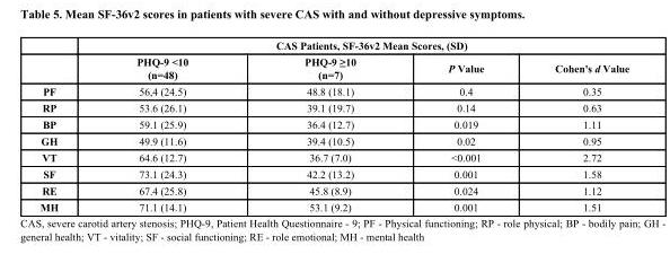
<table><thead><tr><td rowspan="2"></td><td colspan="4">CAS Patients, SF-36v2 Mean Scores, (SD)</td></tr><tr><td>PHQ-9 &lt;10 (n=48)</td><td>PHQ-9 ≥10 (n=7)</td><td>P Value</td><td>Cohen&#x27;s d Value</td></tr></thead><tbody><tr><td>PF</td><td>56,4 (24.5)</td><td>48.8 (18.1)</td><td>0.4</td><td>0.35</td></tr><tr><td>RP</td><td>53.6 (26.1)</td><td>39.1 (19.7)</td><td>0.14</td><td>0.63</td></tr><tr><td>BP</td><td>59.1 (25.9)</td><td>36.4 (12.7)</td><td>0.019</td><td>1.11</td></tr><tr><td>GH</td><td>49.9 (11.6)</td><td>39.4 (10.5)</td><td>0.02</td><td>0.95</td></tr><tr><td>VT</td><td>64.6 (12.7)</td><td>36.7 (7.0)</td><td>&lt;0.001</td><td>2.72</td></tr><tr><td>SF</td><td>73.1 (24.3)</td><td>42.2 (13.2)</td><td>0.001</td><td>1.58</td></tr><tr><td>RE</td><td>67.4 (25.8)</td><td>45.8 (8.9)</td><td>0.024</td><td>1.12</td></tr><tr><td>MH</td><td>71.1 (14.1)</td><td>53.1 (9.2)</td><td>0.001</td><td>1.51</td></tr></tbody></table>